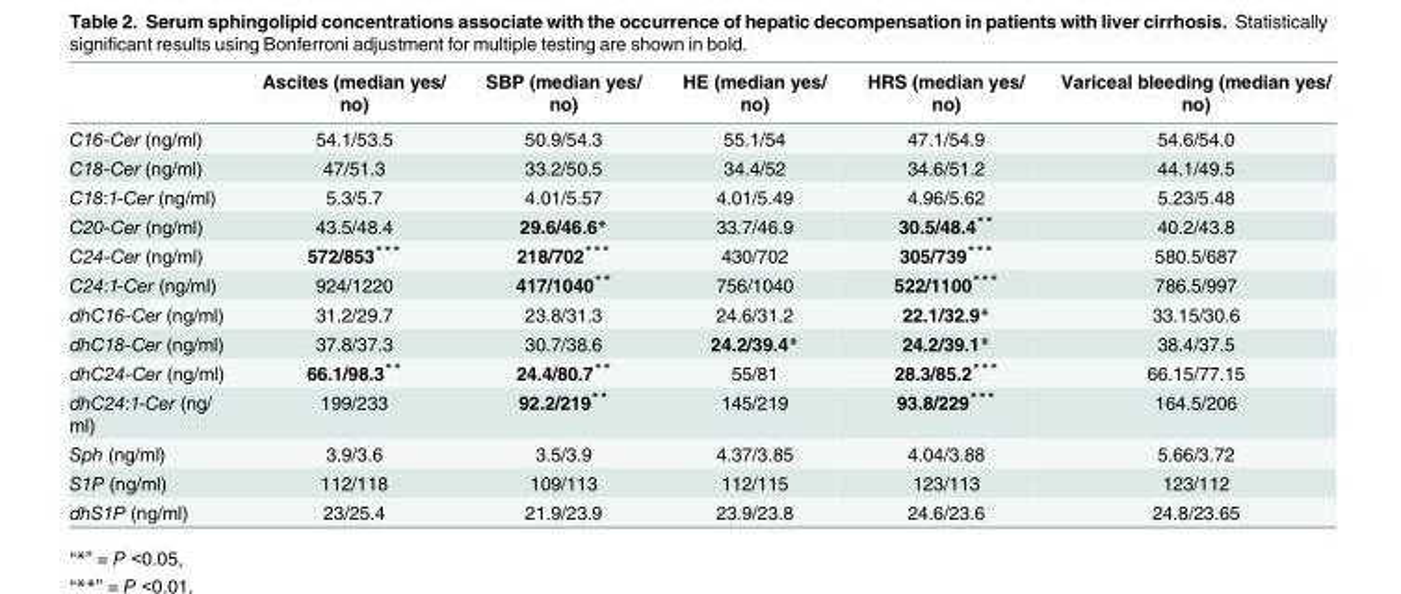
<table><thead><tr><td></td><td>Ascites (median yes/ no)</td><td>SBP (median yes/ no)</td><td>HE (median yes/ no)</td><td>HRS (median yes/ no)</td><td>Variceal bleeding (median yes/ no)</td></tr></thead><tbody><tr><td>C16-Cer (ng/ml)</td><td>54.1/53.5</td><td>50.9/54.3</td><td>55.1/54</td><td>47.1/54.9</td><td>54.6/54.0</td></tr><tr><td>C18-Cer (ng/ml)</td><td>47/51.3</td><td>33.2/50.5</td><td>34.4/52</td><td>34.6/51.2</td><td>44.1/49.5</td></tr><tr><td>C18:1-Cer (ng/ml)</td><td>5.3/5.7</td><td>4.01/5.57</td><td>4.01/5.49</td><td>4.96/5.62</td><td>5.23/5.48</td></tr><tr><td>C20-Cer (ng/ml)</td><td>43.5/48.4</td><td>29.6/46.6*</td><td>33.7/46.9</td><td>30.5/48.4**</td><td>40.2/43.8</td></tr><tr><td>C24-Cer (ng/ml)</td><td>572/853***</td><td>218/702***</td><td>430/702</td><td>305/739***</td><td>580.5/687</td></tr><tr><td>C24:1-Cer (ng/ml)</td><td>924/1220</td><td>417/1040**</td><td>756/1040</td><td>522/1100***</td><td>786.5/997</td></tr><tr><td>dhC16-Cer (ng/ml)</td><td>31.2/29.7</td><td>23.8/31.3</td><td>24.6/31.2</td><td>22.1/32.9*</td><td>33.15/30.6</td></tr><tr><td>dhC18-Cer (ng/ml)</td><td>37.8/37.3</td><td>30.7/38.6</td><td>24.2/39.4*</td><td>24.2/39.1*</td><td>38.4/37.5</td></tr><tr><td>dhC24-Cer (ng/ml)</td><td>66.1/98.3**</td><td>24.4/80.7**</td><td>55/81</td><td>28.3/85.2***</td><td>66.15/77.15</td></tr><tr><td>dhC24:1-Cer (ng/ ml)</td><td>199/233</td><td>92.2/219**</td><td>145/219</td><td>93.8/229***</td><td>164.5/206</td></tr><tr><td>Sph (ng/ml)</td><td>3.9/3.6</td><td>3.5/3.9</td><td>4.37/3.85</td><td>4.04/3.88</td><td>5.66/3.72</td></tr><tr><td>S1P (ng/ml)</td><td>112/118</td><td>109/113</td><td>112/115</td><td>123/113</td><td>123/112</td></tr><tr><td>dhS1P (ng/ml)</td><td>23/25.4</td><td>21.9/23.9</td><td>23.9/23.8</td><td>24.6/23.6</td><td>24.8/23.65</td></tr></tbody></table>